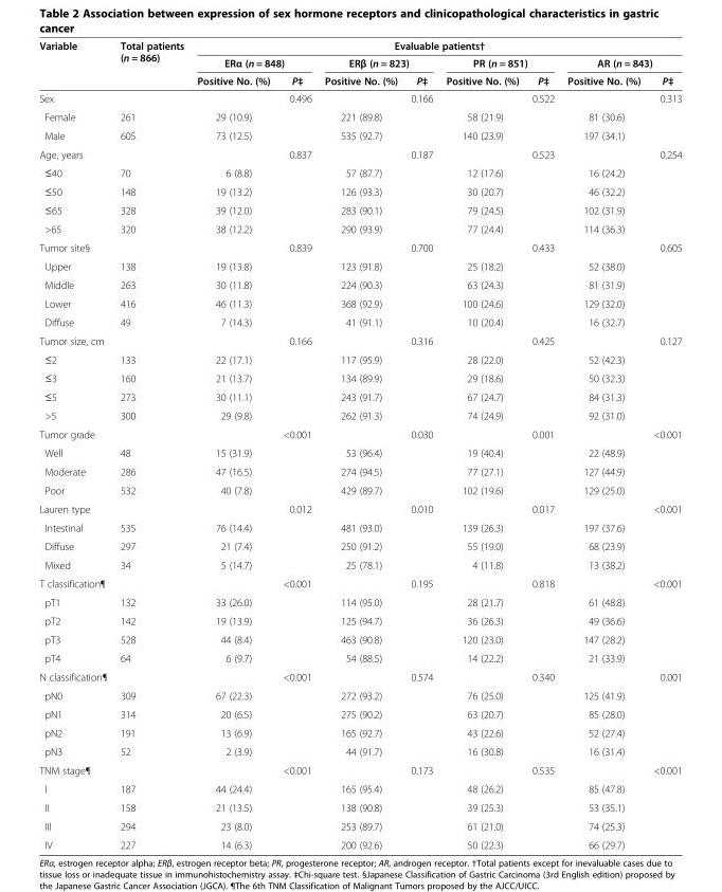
<table><thead><tr><td rowspan="3">Variable</td><td rowspan="3">Total patients (n = 866)</td><td colspan="8">Evaluable patients†</td></tr><tr><td colspan="2">ERα (n = 848)</td><td colspan="2">ERβ (n = 823)</td><td colspan="2">PR (n = 851)</td><td colspan="2">AR (n = 843)</td></tr><tr><td>Positive No. (%)</td><td>P‡</td><td>Positive No. (%)</td><td>P‡</td><td>Positive No. (%)</td><td>P‡</td><td>Positive No. (%)</td><td>P‡</td></tr></thead><tbody><tr><td>Sex</td><td></td><td></td><td>0.496</td><td></td><td>0.166</td><td></td><td>0.522</td><td></td><td>0.313</td></tr><tr><td>Female</td><td>261</td><td>29 (10.9)</td><td></td><td>221 (89.8)</td><td></td><td>58 (21.9)</td><td></td><td>81 (30.6)</td><td></td></tr><tr><td>Male</td><td>605</td><td>73 (12.5)</td><td></td><td>535 (92.7)</td><td></td><td>140 (23.9)</td><td></td><td>197 (34.1)</td><td></td></tr><tr><td>Age, years</td><td></td><td></td><td>0.837</td><td></td><td>0.187</td><td></td><td>0.523</td><td></td><td>0.254</td></tr><tr><td>≤40</td><td>70</td><td>6 (8.8)</td><td></td><td>57 (87.7)</td><td></td><td>12 (17.6)</td><td></td><td>16 (24.2)</td><td></td></tr><tr><td>≤50</td><td>148</td><td>19 (13.2)</td><td></td><td>126 (93.3)</td><td></td><td>30 (20.7)</td><td></td><td>46 (32.2)</td><td></td></tr><tr><td>≤65</td><td>328</td><td>39 (12.0)</td><td></td><td>283 (90.1)</td><td></td><td>79 (24.5)</td><td></td><td>102 (31.9)</td><td></td></tr><tr><td>&gt;65</td><td>320</td><td>38 (12.2)</td><td></td><td>290 (93.9)</td><td></td><td>77 (24.4)</td><td></td><td>114 (36.3)</td><td></td></tr><tr><td>Tumor site§</td><td></td><td></td><td>0.839</td><td></td><td>0.700</td><td></td><td>0.433</td><td></td><td>0.605</td></tr><tr><td>Upper</td><td>138</td><td>19 (13.8)</td><td></td><td>123 (91.8)</td><td></td><td>25 (18.2)</td><td></td><td>52 (38.0)</td><td></td></tr><tr><td>Middle</td><td>263</td><td>30 (11.8)</td><td></td><td>224 (90.3)</td><td></td><td>63 (24.3)</td><td></td><td>81 (31.9)</td><td></td></tr><tr><td>Lower</td><td>416</td><td>46 (11.3)</td><td></td><td>368 (92.9)</td><td></td><td>100 (24.6)</td><td></td><td>129 (32.0)</td><td></td></tr><tr><td>Diffuse</td><td>49</td><td>7 (14.3)</td><td></td><td>41 (91.1)</td><td></td><td>10 (20.4)</td><td></td><td>16 (32.7)</td><td></td></tr><tr><td>Tumor size, cm</td><td></td><td></td><td>0.166</td><td></td><td>0.316</td><td></td><td>0.425</td><td></td><td>0.127</td></tr><tr><td>≤2</td><td>133</td><td>22 (17.1)</td><td></td><td>117 (95.9)</td><td></td><td>28 (22.0)</td><td></td><td>52 (42.3)</td><td></td></tr><tr><td>≤3</td><td>160</td><td>21 (13.7)</td><td></td><td>134 (89.9)</td><td></td><td>29 (18.6)</td><td></td><td>50 (32.3)</td><td></td></tr><tr><td>≤5</td><td>273</td><td>30 (11.1)</td><td></td><td>243 (91.7)</td><td></td><td>67 (24.7)</td><td></td><td>84 (31.3)</td><td></td></tr><tr><td>&gt;5</td><td>300</td><td>29 (9.8)</td><td></td><td>262 (91.3)</td><td></td><td>74 (24.9)</td><td></td><td>92 (31.0)</td><td></td></tr><tr><td>Tumor grade</td><td></td><td></td><td>&lt;0.001</td><td></td><td>0.030</td><td></td><td>0.001</td><td></td><td>&lt;0.001</td></tr><tr><td>Well</td><td>48</td><td>15 (31.9)</td><td></td><td>53 (96.4)</td><td></td><td>19 (40.4)</td><td></td><td>22 (48.9)</td><td></td></tr><tr><td>Moderate</td><td>286</td><td>47 (16.5)</td><td></td><td>274 (94.5)</td><td></td><td>77 (27.1)</td><td></td><td>127 (44.9)</td><td></td></tr><tr><td>Poor</td><td>532</td><td>40 (7.8)</td><td></td><td>429 (89.7)</td><td></td><td>102 (19.6)</td><td></td><td>129 (25.0)</td><td></td></tr><tr><td>Lauren type</td><td></td><td></td><td>0.012</td><td></td><td>0.010</td><td></td><td>0.017</td><td></td><td>&lt;0.001</td></tr><tr><td>Intestinal</td><td>535</td><td>76 (14.4)</td><td></td><td>481 (93.0)</td><td></td><td>139 (26.3)</td><td></td><td>197 (37.6)</td><td></td></tr><tr><td>Diffuse</td><td>297</td><td>21 (7.4)</td><td></td><td>250 (91.2)</td><td></td><td>55 (19.0)</td><td></td><td>68 (23.9)</td><td></td></tr><tr><td>Mixed</td><td>34</td><td>5 (14.7)</td><td></td><td>25 (78.1)</td><td></td><td>4 (11.8)</td><td></td><td>13 (38.2)</td><td></td></tr><tr><td>T classification¶</td><td></td><td></td><td>&lt;0.001</td><td></td><td>0.195</td><td></td><td>0.818</td><td></td><td>&lt;0.001</td></tr><tr><td>pT1</td><td>132</td><td>33 (26.0)</td><td></td><td>114 (95.0)</td><td></td><td>28 (21.7)</td><td></td><td>61 (48.8)</td><td></td></tr><tr><td>pT2</td><td>142</td><td>19 (13.9)</td><td></td><td>125 (94.7)</td><td></td><td>36 (26.3)</td><td></td><td>49 (36.6)</td><td></td></tr><tr><td>pT3</td><td>528</td><td>44 (8.4)</td><td></td><td>463 (90.8)</td><td></td><td>120 (23.0)</td><td></td><td>147 (28.2)</td><td></td></tr><tr><td>pT4</td><td>64</td><td>6 (9.7)</td><td></td><td>54 (88.5)</td><td></td><td>14 (22.2)</td><td></td><td>21 (33.9)</td><td></td></tr><tr><td>N classification¶</td><td></td><td></td><td>&lt;0.001</td><td></td><td>0.574</td><td></td><td>0.340</td><td></td><td>0.001</td></tr><tr><td>pN0</td><td>309</td><td>67 (22.3)</td><td></td><td>272 (93.2)</td><td></td><td>76 (25.0)</td><td></td><td>125 (41.9)</td><td></td></tr><tr><td>pN1</td><td>314</td><td>20 (6.5)</td><td></td><td>275 (90.2)</td><td></td><td>63 (20.7)</td><td></td><td>85 (28.0)</td><td></td></tr><tr><td>pN2</td><td>191</td><td>13 (6.9)</td><td></td><td>165 (92.7)</td><td></td><td>43 (22.6)</td><td></td><td>52 (27.4)</td><td></td></tr><tr><td>pN3</td><td>52</td><td>2 (3.9)</td><td></td><td>44 (91.7)</td><td></td><td>16 (30.8)</td><td></td><td>16 (31.4)</td><td></td></tr><tr><td>TNM stage¶</td><td></td><td></td><td>&lt;0.001</td><td></td><td>0.173</td><td></td><td>0.535</td><td></td><td>&lt;0.001</td></tr><tr><td>I</td><td>187</td><td>44 (24.4)</td><td></td><td>165 (95.4)</td><td></td><td>48 (26.2)</td><td></td><td>85 (47.8)</td><td></td></tr><tr><td>II</td><td>158</td><td>21 (13.5)</td><td></td><td>138 (90.8)</td><td></td><td>39 (25.3)</td><td></td><td>53 (35.1)</td><td></td></tr><tr><td>III</td><td>294</td><td>23 (8.0)</td><td></td><td>253 (89.7)</td><td></td><td>61 (21.0)</td><td></td><td>74 (25.3)</td><td></td></tr><tr><td>IV</td><td>227</td><td>14 (6.3)</td><td></td><td>200 (92.6)</td><td></td><td>50 (22.3)</td><td></td><td>66 (29.7)</td><td></td></tr></tbody></table>